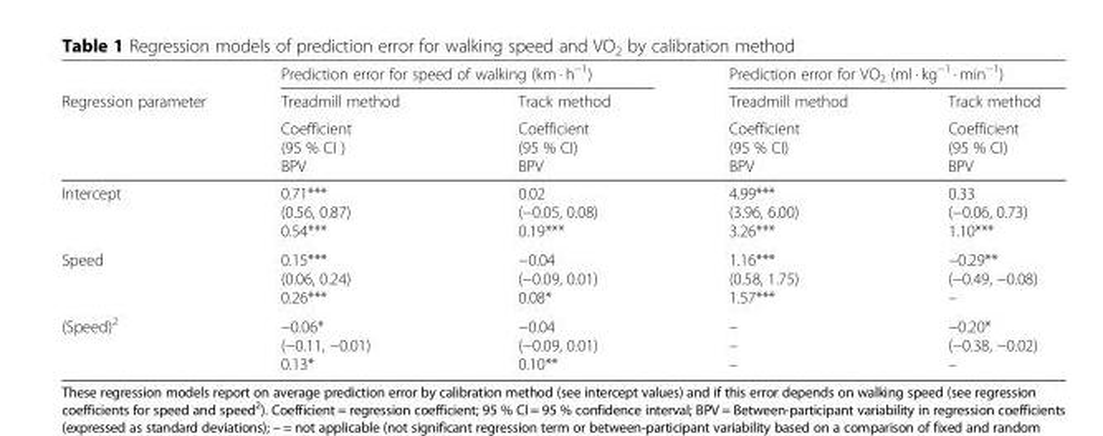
<table><thead><tr><td rowspan="3">Regression parameter</td><td colspan="2">Prediction error for speed of walking (km · h<sup>−1</sup>)</td><td colspan="2">Prediction error for VO<sub>2</sub> (ml · kg<sup>−1</sup> · min<sup>−1</sup>)</td></tr><tr><td rowspan="2">Treadmill method Coefficient (95 % CI ) BPV</td><td rowspan="2">Track method Coefficient (95 % CI) BPV</td><td rowspan="2">Treadmill method Coefficient (95 % CI) BPV</td><td rowspan="2">Track method Coefficient (95 % CI) BPV</td></tr><tr></tr></thead><tbody><tr><td>Intercept</td><td>0.71*** (0.56, 0.87) 0.54***</td><td>0.02 (−0.05, 0.08) 0.19***</td><td>4.99*** (3.96, 6.00) 3.26***</td><td>0.33 (−0.06, 0.73) 1.10***</td></tr><tr><td>Speed</td><td>0.15*** (0.06, 0.24) 0.26***</td><td>−0.04 (−0.09, 0.01) 0.08*</td><td>1.16*** (0.58, 1.75) 1.57***</td><td>−0.29** (−0.49, −0.08) –</td></tr><tr><td>(Speed)<sup>2</sup></td><td>−0.06* (−0.11, −0.01) 0.13*</td><td>−0.04 (−0.09, 0.01) 0.10**</td><td>– – –</td><td>−0.20* (−0.38, −0.02) –</td></tr></tbody></table>